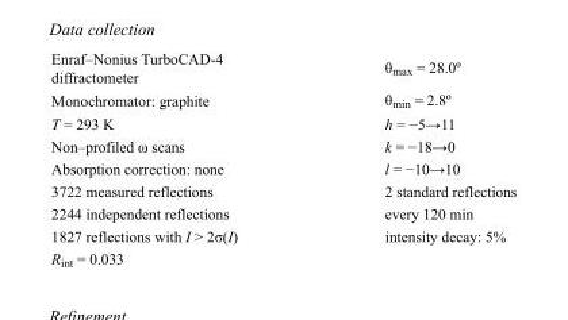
<table><tbody><tr><td>Enraf–Nonius TurboCAD-4 diffractometer</td><td>θ<sub>max</sub> = 28.0º</td></tr><tr><td>Monochromator: graphite</td><td>θ<sub>min</sub> = 2.8º</td></tr><tr><td>T = 293 K</td><td>h = −5→11</td></tr><tr><td>Non–profiled ω scans</td><td>k = −18→0</td></tr><tr><td>Absorption correction: none</td><td>l = −10→10</td></tr><tr><td>3722 measured reflections</td><td>2 standard reflections</td></tr><tr><td>2244 independent reflections</td><td>every 120 min</td></tr><tr><td>1827 reflections with I &gt; 2σ(I)</td><td>intensity decay: 5%</td></tr><tr><td>R<sub>int</sub> = 0.033</td><td></td></tr></tbody></table>